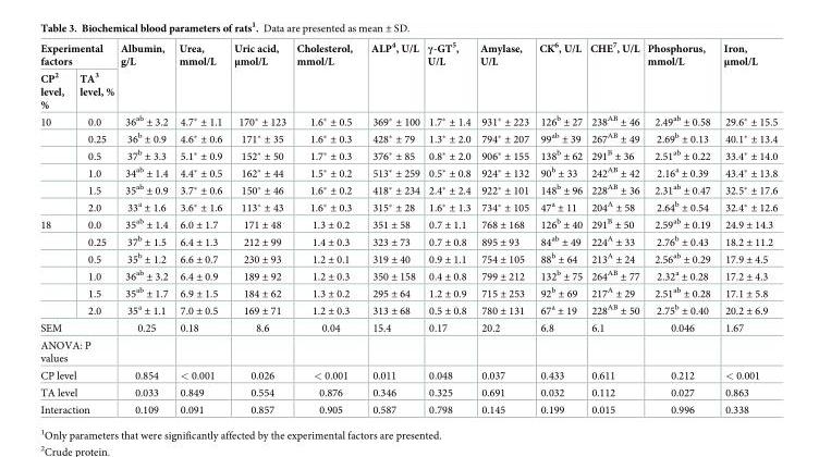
<table><thead><tr><td colspan="2">Experimental factors</td><td rowspan="2">Albumin, g/L</td><td rowspan="2">Urea, mmol/L</td><td rowspan="2">Uric acid, μmol/L</td><td rowspan="2">Cholesterol, mmol/L</td><td rowspan="2">ALP<sup>4</sup>, U/L</td><td rowspan="2">γ-GT<sup>5</sup>, U/L</td><td rowspan="2">Amylase, U/L</td><td rowspan="2">CK<sup>6</sup>, U/L</td><td rowspan="2">CHE<sup>7</sup>, U/L</td><td rowspan="2">Phosphorus, mmol/L</td><td rowspan="2">Iron, μmol/L</td></tr><tr><td>CP<sup>2</sup> level, %</td><td>TA<sup>3</sup> level, %</td></tr></thead><tbody><tr><td rowspan="6">10</td><td>0.0</td><td>36<sup>ab</sup> ± 3.2</td><td>4.7* ± 1.1</td><td>170* ± 123</td><td>1.6* ± 0.5</td><td>369* ± 100</td><td>1.7* ± 1.4</td><td>931* ± 223</td><td>126<sup>b</sup> ± 27</td><td>238<sup>AB</sup> ± 46</td><td>2.49<sup>ab</sup> ± 0.58</td><td>29.6* ± 15.5</td></tr><tr><td>0.25</td><td>36<sup>b</sup> ± 0.9</td><td>4.6* ± 0.6</td><td>171* ± 35</td><td>1.6* ± 0.3</td><td>428* ± 79</td><td>1.3* ± 2.0</td><td>794* ± 207</td><td>99<sup>ab</sup> ± 39</td><td>267<sup>AB</sup> ± 49</td><td>2.69<sup>b</sup> ± 0.13</td><td>40.1* ± 13.4</td></tr><tr><td>0.5</td><td>37<sup>b</sup> ± 3.3</td><td>5.1* ± 0.9</td><td>152* ± 50</td><td>1.7* ± 0.3</td><td>376* ± 85</td><td>0.8* ± 2.0</td><td>906* ± 155</td><td>138<sup>b</sup> ± 62</td><td>291<sup>B</sup> ± 36</td><td>2.51<sup>ab</sup> ± 0.22</td><td>33.4* ± 14.0</td></tr><tr><td>1.0</td><td>34<sup>ab</sup> ± 1.4</td><td>4.4* ± 0.5</td><td>162* ± 44</td><td>1.5* ± 0.2</td><td>513* ± 259</td><td>0.5* ± 0.8</td><td>924* ± 132</td><td>90<sup>b</sup> ± 33</td><td>242<sup>AB</sup> ± 42</td><td>2.16<sup>a</sup> ± 0.39</td><td>43.4* ± 13.8</td></tr><tr><td>1.5</td><td>35<sup>ab</sup> ± 0.9</td><td>3.7* ± 0.6</td><td>150* ± 46</td><td>1.6* ± 0.2</td><td>418* ± 234</td><td>2.4* ± 2.4</td><td>922* ± 101</td><td>148<sup>b</sup> ± 96</td><td>228<sup>AB</sup> ± 36</td><td>2.31<sup>ab</sup> ± 0.47</td><td>32.5* ± 17.6</td></tr><tr><td>2.0</td><td>33<sup>a</sup> ± 1.6</td><td>3.6* ± 1.6</td><td>113* ± 43</td><td>1.6* ± 0.3</td><td>315* ± 28</td><td>1.6* ± 1.3</td><td>734* ± 105</td><td>47<sup>a</sup> ± 11</td><td>204<sup>A</sup> ± 58</td><td>2.64<sup>b</sup> ± 0.54</td><td>32.4* ± 12.6</td></tr><tr><td rowspan="6">18</td><td>0.0</td><td>35<sup>ab</sup> ± 1.4</td><td>6.0 ± 1.7</td><td>171 ± 48</td><td>1.3 ± 0.2</td><td>351 ± 58</td><td>0.7 ± 1.1</td><td>768 ± 168</td><td>126<sup>b</sup> ± 40</td><td>291<sup>B</sup> ± 50</td><td>2.59<sup>ab</sup> ± 0.19</td><td>24.9 ± 14.3</td></tr><tr><td>0.25</td><td>37<sup>b</sup> ± 1.5</td><td>6.4 ± 1.3</td><td>212 ± 99</td><td>1.4 ± 0.3</td><td>323 ± 73</td><td>0.7 ± 0.8</td><td>895 ± 93</td><td>84<sup>ab</sup> ± 49</td><td>224<sup>A</sup> ± 33</td><td>2.76<sup>b</sup> ± 0.43</td><td>18.2 ± 11.2</td></tr><tr><td>0.5</td><td>35<sup>b</sup> ± 1.2</td><td>6.6 ± 0.7</td><td>230 ± 93</td><td>1.2 ± 0.1</td><td>319 ± 40</td><td>0.9 ± 1.1</td><td>754 ± 105</td><td>88<sup>b</sup> ± 64</td><td>213<sup>A</sup> ± 24</td><td>2.56<sup>ab</sup> ± 0.29</td><td>17.9 ± 4.5</td></tr><tr><td>1.0</td><td>36<sup>ab</sup> ± 3.2</td><td>6.4 ± 0.9</td><td>189 ± 92</td><td>1.2 ± 0.3</td><td>350 ± 158</td><td>0.4 ± 0.8</td><td>799 ± 212</td><td>132<sup>b</sup> ± 75</td><td>264<sup>AB</sup> ± 77</td><td>2.32<sup>a</sup> ± 0.28</td><td>17.2 ± 4.3</td></tr><tr><td>1.5</td><td>35<sup>ab</sup> ± 1.7</td><td>6.9 ± 1.5</td><td>184 ± 62</td><td>1.3 ± 0.2</td><td>295 ± 64</td><td>1.2 ± 0.9</td><td>715 ± 253</td><td>92<sup>b</sup> ± 69</td><td>217<sup>A</sup> ± 29</td><td>2.51<sup>ab</sup> ± 0.28</td><td>17.1 ± 5.8</td></tr><tr><td>2.0</td><td>35<sup>a</sup> ± 1.1</td><td>7.0 ± 0.5</td><td>169 ± 71</td><td>1.2 ± 0.3</td><td>313 ± 68</td><td>0.5 ± 0.8</td><td>780 ± 131</td><td>67<sup>a</sup> ± 19</td><td>228<sup>AB</sup> ± 50</td><td>2.75<sup>b</sup> ± 0.40</td><td>20.2 ± 6.9</td></tr><tr><td colspan="2">SEM</td><td>0.25</td><td>0.18</td><td>8.6</td><td>0.04</td><td>15.4</td><td>0.17</td><td>20.2</td><td>6.8</td><td>6.1</td><td>0.046</td><td>1.67</td></tr><tr><td colspan="13">ANOVA: P values</td></tr><tr><td colspan="2">CP level</td><td>0.854</td><td>&lt; 0.001</td><td>0.026</td><td>&lt; 0.001</td><td>0.011</td><td>0.048</td><td>0.037</td><td>0.433</td><td>0.611</td><td>0.212</td><td>&lt; 0.001</td></tr><tr><td colspan="2">TA level</td><td>0.033</td><td>0.849</td><td>0.554</td><td>0.876</td><td>0.346</td><td>0.325</td><td>0.691</td><td>0.032</td><td>0.112</td><td>0.027</td><td>0.863</td></tr><tr><td colspan="2">Interaction</td><td>0.109</td><td>0.091</td><td>0.857</td><td>0.905</td><td>0.587</td><td>0.798</td><td>0.145</td><td>0.199</td><td>0.015</td><td>0.996</td><td>0.338</td></tr></tbody></table>